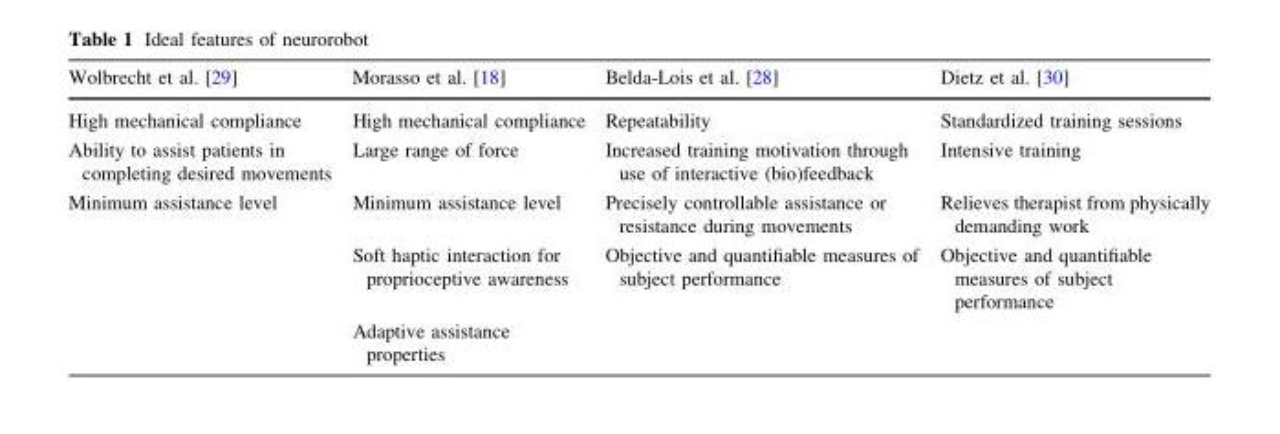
<table><thead><tr><td>Wolbrecht et al. [29]</td><td>Morasso et al. [18]</td><td>Belda-Lois et al. [28]</td><td>Dietz et al. [30]</td></tr></thead><tbody><tr><td>High mechanical compliance</td><td>High mechanical compliance</td><td>Repeatability</td><td>Standardized training sessions</td></tr><tr><td>Ability to assist patients in completing desired movements</td><td>Large range of force</td><td>Increased training motivation through use of interactive (bio)feedback</td><td>Intensive training</td></tr><tr><td rowspan="3">Minimum assistance level</td><td>Minimum assistance level</td><td>Precisely controllable assistance or resistance during movements</td><td>Relieves therapist from physically demanding work</td></tr><tr><td>Soft haptic interaction for proprioceptive awareness</td><td>Objective and quantifiable measures of subject performance</td><td>Objective and quantifiable measures of subject performance</td></tr><tr><td>Adaptive assistance properties</td><td></td><td></td></tr></tbody></table>